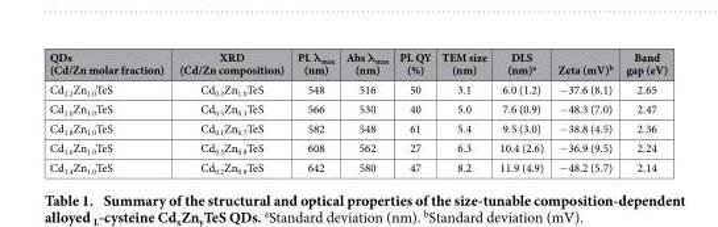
<table><thead><tr><td>QDs (Cd/Zn molar fraction)</td><td>XRD (Cd/Zn composition)</td><td>PL λ<sub>max</sub> (nm)</td><td>Abs λ<sub>max</sub> (nm)</td><td>PL QY (%)</td><td>TEM size (nm)</td><td>DLS (nm)<sup>a</sup></td><td>Zeta (mV)<sup>b</sup></td><td>Band gap (eV)</td></tr></thead><tbody><tr><td>Cd<sub>2.2</sub>Zn<sub>1.0</sub>TeS</td><td>Cd<sub>0.3</sub>Zn<sub>1.0</sub>TeS</td><td>548</td><td>516</td><td>50</td><td>3.1</td><td>6.0 (1.2)</td><td>− 37.6 (8.1)</td><td>2.65</td></tr><tr><td>Cd<sub>2.0</sub>Zn<sub>1.0</sub>TeS</td><td>Cd<sub>0.5</sub>Zn<sub>0.3</sub>TeS</td><td>566</td><td>530</td><td>40</td><td>5.0</td><td>7.6 (0.9)</td><td>− 48.3 (7.0)</td><td>2.47</td></tr><tr><td>Cd<sub>1.8</sub>Zn<sub>1.0</sub>TeS</td><td>Cd<sub>0.1</sub>Zn<sub>0.7</sub>TeS</td><td>582</td><td>548</td><td>61</td><td>5.4</td><td>9.5 (3.0)</td><td>− 38.8 (4.5)</td><td>2.36</td></tr><tr><td>Cd<sub>1.6</sub>Zn<sub>1.0</sub>TeS</td><td>Cd<sub>0.3</sub>Zn<sub>0.8</sub>TeS</td><td>608</td><td>562</td><td>27</td><td>6.3</td><td>10.4 (2.6)</td><td>− 36.9 (9.5)</td><td>2.24</td></tr><tr><td>Cd<sub>1.4</sub>Zn<sub>1.0</sub>TeS</td><td>Cd<sub>0.2</sub>Zn<sub>0.8</sub>TeS</td><td>642</td><td>580</td><td>47</td><td>8.2</td><td>11.9 (4.9)</td><td>− 48.2 (5.7)</td><td>2.14</td></tr></tbody></table>